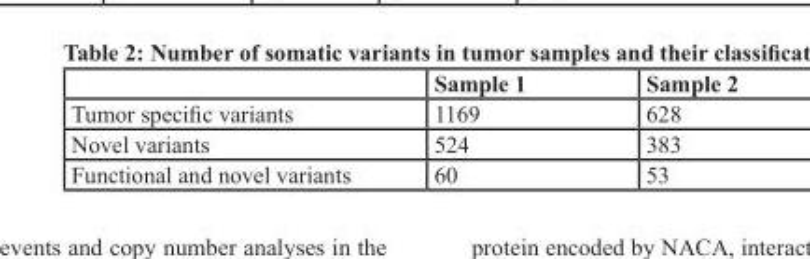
<table><thead><tr><td></td><td>Sample 1</td><td>Sample 2</td></tr></thead><tbody><tr><td>Tumor specific variants</td><td>1169</td><td>628</td></tr><tr><td>Novel variants</td><td>524</td><td>383</td></tr><tr><td>Functional and novel variants</td><td>60</td><td>53</td></tr></tbody></table>